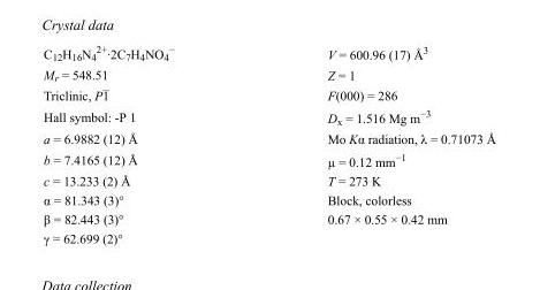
<table><tbody><tr><td>C<sub>12</sub>H<sub>16</sub>N<sub>4</sub> <sup>2+</sup>·2C<sub>7</sub>H<sub>4</sub>NO<sub>4</sub> <sup>−</sup></td><td>V = 600.96 (17) Å<sup>3</sup></td></tr><tr><td>M<sub>r</sub> = 548.51</td><td>Z = 1</td></tr><tr><td>Triclinic, P1</td><td>F(000) = 286</td></tr><tr><td>Hall symbol: -P 1</td><td>D<sub>x</sub> = 1.516 Mg m<sup>−3</sup></td></tr><tr><td>a = 6.9882 (12) Å</td><td>Mo Kα radiation, λ = 0.71073 Å</td></tr><tr><td>b = 7.4165 (12) Å</td><td>µ = 0.12 mm<sup>−1</sup></td></tr><tr><td>c = 13.233 (2) Å</td><td>T = 273 K</td></tr><tr><td>α = 81.343 (3)°</td><td>Block, colorless</td></tr><tr><td>β = 82.443 (3)°</td><td>0.67 × 0.55 × 0.42 mm</td></tr><tr><td>γ = 62.699 (2)°</td><td></td></tr></tbody></table>